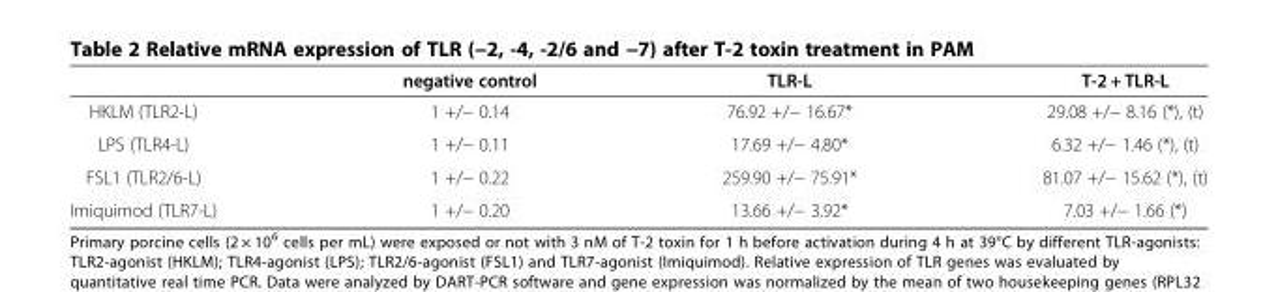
<table><thead><tr><td></td><td>negative control</td><td>TLR-L</td><td>T-2 + TLR-L</td></tr></thead><tbody><tr><td>HKLM (TLR2-L)</td><td>1 +/− 0.14</td><td>76.92 +/− 16.67*</td><td>29.08 +/− 8.16 (*), (t)</td></tr><tr><td>LPS (TLR4-L)</td><td>1 +/− 0.11</td><td>17.69 +/− 4.80*</td><td>6.32 +/− 1.46 (*), (t)</td></tr><tr><td>FSL1 (TLR2/6-L)</td><td>1 +/− 0.22</td><td>259.90 +/− 75.91*</td><td>81.07 +/− 15.62 (*), (t)</td></tr><tr><td>Imiquimod (TLR7-L)</td><td>1 +/− 0.20</td><td>13.66 +/− 3.92*</td><td>7.03 +/− 1.66 (*)</td></tr></tbody></table>